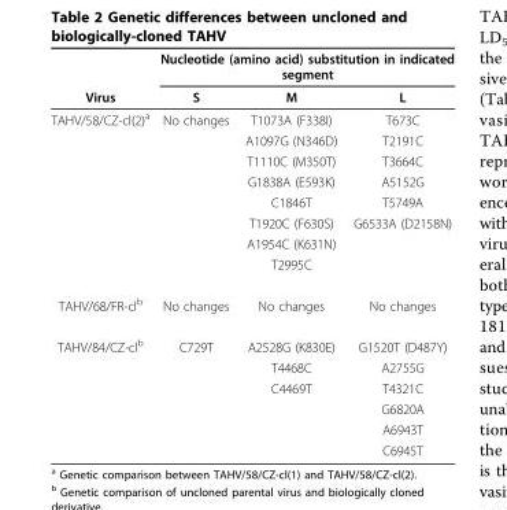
<table><thead><tr><td rowspan="2">Virus</td><td colspan="3">Nucleotide (amino acid) substitution in indicated segment</td></tr><tr><td>S</td><td>M</td><td>L</td></tr></thead><tbody><tr><td rowspan="8">TAHV/58/CZ-cl(2)<sup>a</sup></td><td>No changes</td><td>T1073A (F338I)</td><td>T673C</td></tr><tr><td></td><td>A1097G (N346D)</td><td>T2191C</td></tr><tr><td></td><td>T1110C (M350T)</td><td>T3664C</td></tr><tr><td></td><td>G1838A (E593K)</td><td>A5152G</td></tr><tr><td></td><td>C1846T</td><td>T5749A</td></tr><tr><td></td><td>T1920C (F630S)</td><td>G6533A (D2158N)</td></tr><tr><td></td><td>A1954C (K631N)</td><td></td></tr><tr><td></td><td>T2995C</td><td></td></tr><tr><td>TAHV/68/FR-cl<sup>b</sup></td><td>No changes</td><td>No changes</td><td>No changes</td></tr><tr><td rowspan="6">TAHV/84/CZ-cl<sup>b</sup></td><td>C729T</td><td>A2528G (K830E)</td><td>G1520T (D487Y)</td></tr><tr><td></td><td>T4468C</td><td>A2755G</td></tr><tr><td></td><td>C4469T</td><td>T4321C</td></tr><tr><td></td><td></td><td>G6820A</td></tr><tr><td></td><td></td><td>A6943T</td></tr><tr><td></td><td></td><td>C6945T</td></tr></tbody></table>